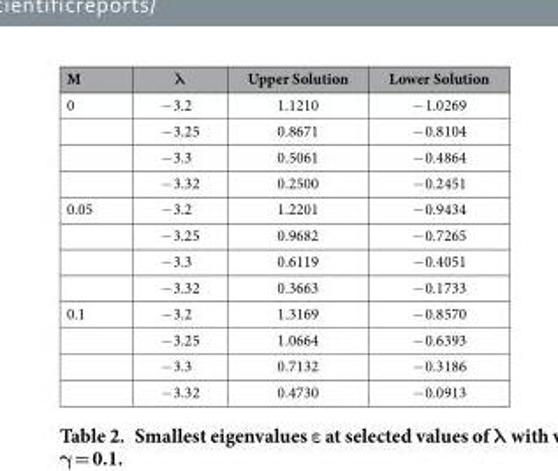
<table><thead><tr><td>M</td><td>λ</td><td>Upper Solution</td><td>Lower Solution</td></tr></thead><tbody><tr><td rowspan="4">0</td><td>− 3.2</td><td>1.1210</td><td>− 1.0269</td></tr><tr><td>− 3.25</td><td>0.8671</td><td>− 0.8104</td></tr><tr><td>− 3.3</td><td>0.5061</td><td>− 0.4864</td></tr><tr><td>− 3.32</td><td>0.2500</td><td>− 0.2451</td></tr><tr><td rowspan="4">0.05</td><td>− 3.2</td><td>1.2201</td><td>− 0.9434</td></tr><tr><td>− 3.25</td><td>0.9682</td><td>− 0.7265</td></tr><tr><td>− 3.3</td><td>0.6119</td><td>− 0.4051</td></tr><tr><td>− 3.32</td><td>0.3663</td><td>− 0.1733</td></tr><tr><td rowspan="4">0.1</td><td>− 3.2</td><td>1.3169</td><td>− 0.8570</td></tr><tr><td>− 3.25</td><td>1.0664</td><td>− 0.6393</td></tr><tr><td>− 3.3</td><td>0.7132</td><td>− 0.3186</td></tr><tr><td>− 3.32</td><td>0.4730</td><td>− 0.0913</td></tr></tbody></table>